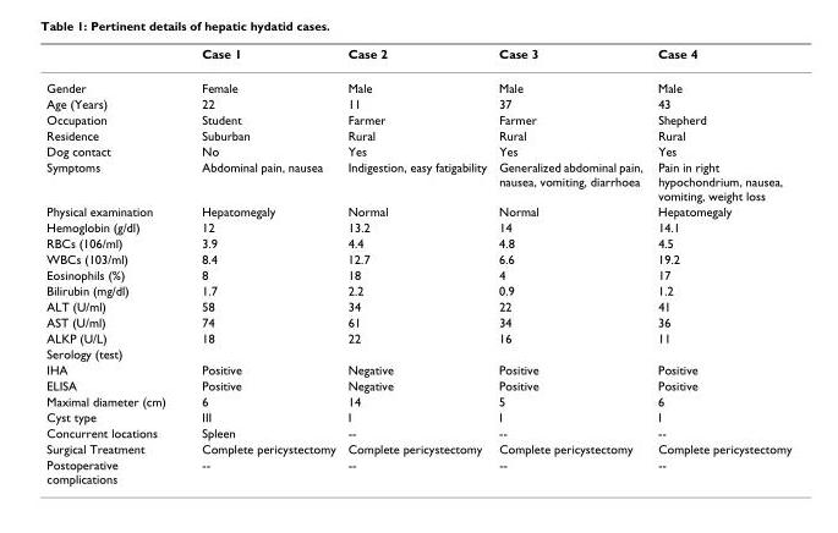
<table><thead><tr><td></td><td>Case 1</td><td>Case 2</td><td>Case 3</td><td>Case 4</td></tr></thead><tbody><tr><td>Gender</td><td>Female</td><td>Male</td><td>Male</td><td>Male</td></tr><tr><td>Age (Years)</td><td>22</td><td>11</td><td>37</td><td>43</td></tr><tr><td>Occupation</td><td>Student</td><td>Farmer</td><td>Farmer</td><td>Shepherd</td></tr><tr><td>Residence</td><td>Suburban</td><td>Rural</td><td>Rural</td><td>Rural</td></tr><tr><td>Dog contact</td><td>No</td><td>Yes</td><td>Yes</td><td>Yes</td></tr><tr><td>Symptoms</td><td>Abdominal pain, nausea</td><td>Indigestion, easy fatigability</td><td>Generalized abdominal pain, nausea, vomiting, diarrhoea</td><td>Pain in right hypochondrium, nausea, vomiting, weight loss</td></tr><tr><td>Physical examination</td><td>Hepatomegaly</td><td>Normal</td><td>Normal</td><td>Hepatomegaly</td></tr><tr><td>Hemoglobin (g/dl)</td><td>12</td><td>13.2</td><td>14</td><td>14.1</td></tr><tr><td>RBCs (106/ml)</td><td>3.9</td><td>4.4</td><td>4.8</td><td>4.5</td></tr><tr><td>WBCs (103/ml)</td><td>8.4</td><td>12.7</td><td>6.6</td><td>19.2</td></tr><tr><td>Eosinophils (%)</td><td>8</td><td>18</td><td>4</td><td>17</td></tr><tr><td>Bilirubin (mg/dl)</td><td>1.7</td><td>2.2</td><td>0.9</td><td>1.2</td></tr><tr><td>ALT (U/ml)</td><td>58</td><td>34</td><td>22</td><td>41</td></tr><tr><td>AST (U/ml)</td><td>74</td><td>61</td><td>34</td><td>36</td></tr><tr><td>ALKP (U/L)</td><td>18</td><td>22</td><td>16</td><td>11</td></tr><tr><td colspan="5">Serology (test)</td></tr><tr><td>IHA</td><td>Positive</td><td>Negative</td><td>Positive</td><td>Positive</td></tr><tr><td>ELISA</td><td>Positive</td><td>Negative</td><td>Positive</td><td>Positive</td></tr><tr><td>Maximal diameter (cm)</td><td>6</td><td>14</td><td>5</td><td>6</td></tr><tr><td>Cyst type</td><td>III</td><td>I</td><td>I</td><td>I</td></tr><tr><td>Concurrent locations</td><td>Spleen</td><td>--</td><td>--</td><td>--</td></tr><tr><td>Surgical Treatment</td><td>Complete pericystectomy</td><td>Complete pericystectomy</td><td>Complete pericystectomy</td><td>Complete pericystectomy</td></tr><tr><td>Postoperative complications</td><td>--</td><td>--</td><td>--</td><td>--</td></tr></tbody></table>